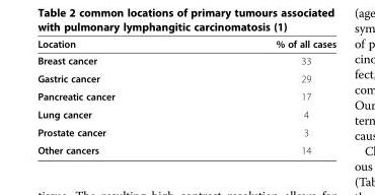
<table><thead><tr><td>Location</td><td>% of all cases</td></tr></thead><tbody><tr><td>Breast cancer</td><td>33</td></tr><tr><td>Gastric cancer</td><td>29</td></tr><tr><td>Pancreatic cancer</td><td>17</td></tr><tr><td>Lung cancer</td><td>4</td></tr><tr><td>Prostate cancer</td><td>3</td></tr><tr><td>Other cancers</td><td>14</td></tr></tbody></table>